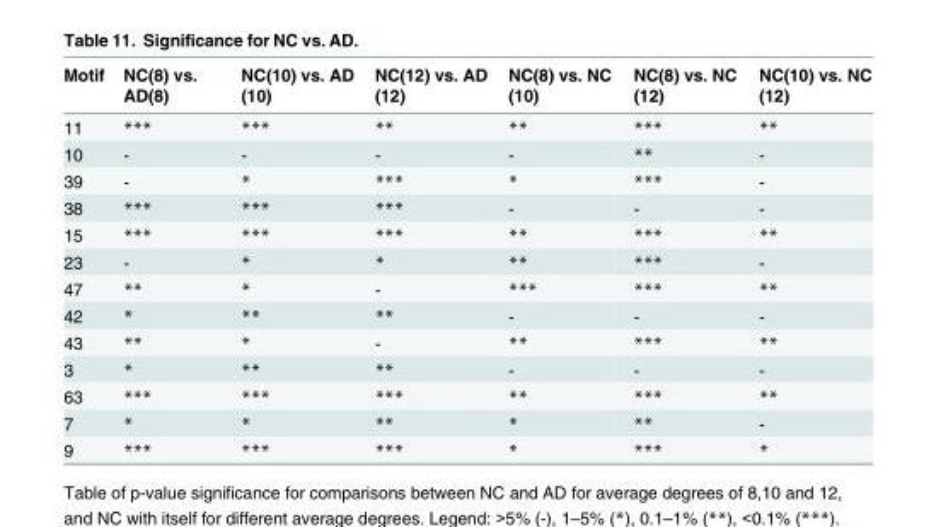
<table><thead><tr><td>Motif</td><td>NC(8) vs. AD(8)</td><td>NC(10) vs. AD (10)</td><td>NC(12) vs. AD (12)</td><td>NC(8) vs. NC (10)</td><td>NC(8) vs. NC (12)</td><td>NC(10) vs. NC (12)</td></tr></thead><tbody><tr><td>11</td><td>***</td><td>***</td><td>**</td><td>**</td><td>***</td><td>**</td></tr><tr><td>10</td><td>-</td><td>-</td><td>-</td><td>-</td><td>**</td><td>-</td></tr><tr><td>39</td><td>-</td><td>*</td><td>***</td><td>*</td><td>***</td><td>-</td></tr><tr><td>38</td><td>***</td><td>***</td><td>***</td><td>-</td><td>-</td><td>-</td></tr><tr><td>15</td><td>***</td><td>***</td><td>***</td><td>**</td><td>***</td><td>**</td></tr><tr><td>23</td><td>-</td><td>*</td><td>*</td><td>**</td><td>***</td><td>-</td></tr><tr><td>47</td><td>**</td><td>*</td><td>-</td><td>***</td><td>***</td><td>**</td></tr><tr><td>42</td><td>*</td><td>**</td><td>**</td><td>-</td><td>-</td><td>-</td></tr><tr><td>43</td><td>**</td><td>*</td><td>-</td><td>**</td><td>***</td><td>**</td></tr><tr><td>3</td><td>*</td><td>**</td><td>**</td><td>-</td><td>-</td><td>-</td></tr><tr><td>63</td><td>***</td><td>***</td><td>***</td><td>**</td><td>***</td><td>**</td></tr><tr><td>7</td><td>*</td><td>*</td><td>**</td><td>*</td><td>**</td><td>-</td></tr><tr><td>9</td><td>***</td><td>***</td><td>***</td><td>*</td><td>***</td><td>*</td></tr></tbody></table>